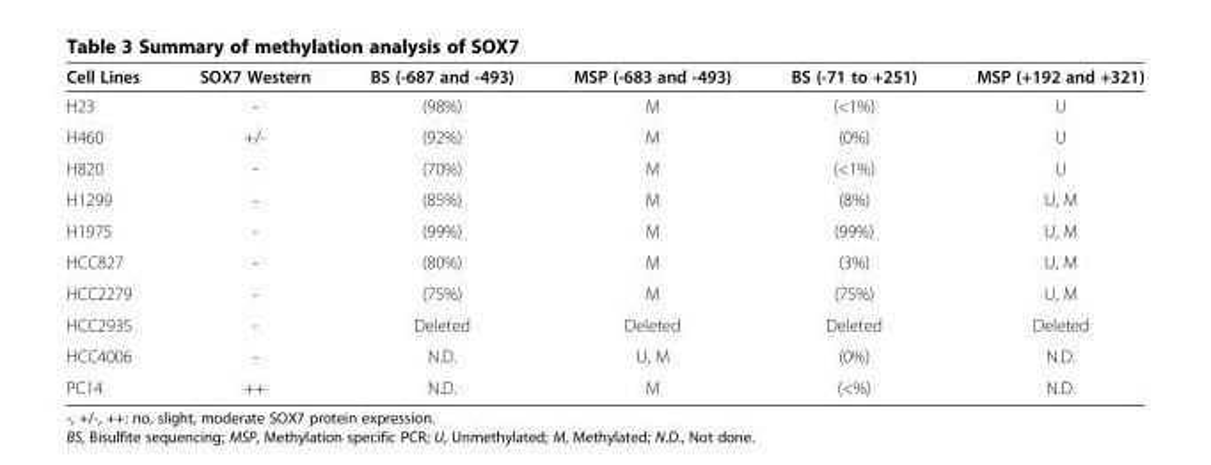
<table><thead><tr><td>Cell Lines</td><td>SOX7 Western</td><td>BS (-687 and -493)</td><td>MSP (-683 and -493)</td><td>BS (-71 to +251)</td><td>MSP (+192 and +321)</td></tr></thead><tbody><tr><td>H23</td><td>-</td><td>(98%)</td><td>M</td><td>(&lt;1%)</td><td>U</td></tr><tr><td>H460</td><td>+/-</td><td>(92%)</td><td>M</td><td>(0%)</td><td>U</td></tr><tr><td>H820</td><td>-</td><td>(70%)</td><td>M</td><td>(&lt;1%)</td><td>U</td></tr><tr><td>H1299</td><td>-</td><td>(85%)</td><td>M</td><td>(8%)</td><td>U, M</td></tr><tr><td>H1975</td><td>-</td><td>(99%)</td><td>M</td><td>(99%)</td><td>U, M</td></tr><tr><td>HCC827</td><td>-</td><td>(80%)</td><td>M</td><td>(3%)</td><td>U, M</td></tr><tr><td>HCC2279</td><td>-</td><td>(75%)</td><td>M</td><td>(75%)</td><td>U, M</td></tr><tr><td>HCC2935</td><td>-</td><td>Deleted</td><td>Deleted</td><td>Deleted</td><td>Deleted</td></tr><tr><td>HCC4006</td><td>-</td><td>N.D.</td><td>U, M</td><td>(0%)</td><td>N.D.</td></tr><tr><td>PC14</td><td>++</td><td>N.D.</td><td>M</td><td>(&lt;%)</td><td>N.D.</td></tr></tbody></table>